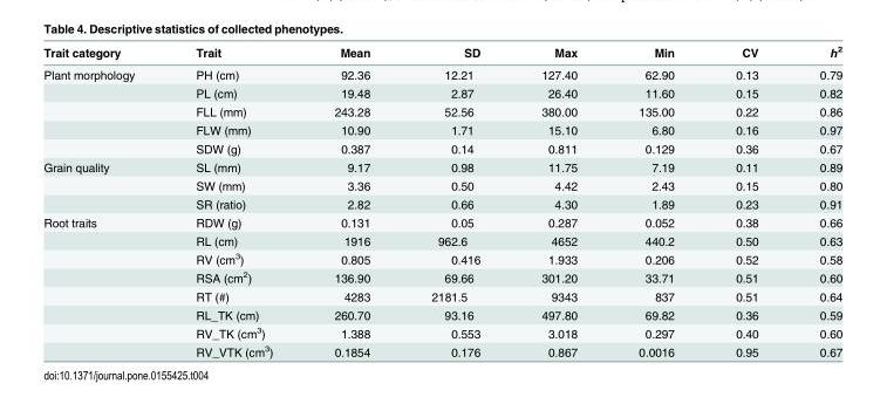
<table><thead><tr><td>Trait category</td><td>Trait</td><td>Mean</td><td>SD</td><td>Max</td><td>Min</td><td>CV</td><td>h<sup>2</sup></td></tr></thead><tbody><tr><td rowspan="5">Plant morphology</td><td>PH (cm)</td><td>92.36</td><td>12.21</td><td>127.40</td><td>62.90</td><td>0.13</td><td>0.79</td></tr><tr><td>PL (cm)</td><td>19.48</td><td>2.87</td><td>26.40</td><td>11.60</td><td>0.15</td><td>0.82</td></tr><tr><td>FLL (mm)</td><td>243.28</td><td>52.56</td><td>380.00</td><td>135.00</td><td>0.22</td><td>0.86</td></tr><tr><td>FLW (mm)</td><td>10.90</td><td>1.71</td><td>15.10</td><td>6.80</td><td>0.16</td><td>0.97</td></tr><tr><td>SDW (g)</td><td>0.387</td><td>0.14</td><td>0.811</td><td>0.129</td><td>0.36</td><td>0.67</td></tr><tr><td rowspan="3">Grain quality</td><td>SL (mm)</td><td>9.17</td><td>0.98</td><td>11.75</td><td>7.19</td><td>0.11</td><td>0.89</td></tr><tr><td>SW (mm)</td><td>3.36</td><td>0.50</td><td>4.42</td><td>2.43</td><td>0.15</td><td>0.80</td></tr><tr><td>SR (ratio)</td><td>2.82</td><td>0.66</td><td>4.30</td><td>1.89</td><td>0.23</td><td>0.91</td></tr><tr><td rowspan="8">Root traits</td><td>RDW (g)</td><td>0.131</td><td>0.05</td><td>0.287</td><td>0.052</td><td>0.38</td><td>0.66</td></tr><tr><td>RL (cm)</td><td>1916</td><td>962.6</td><td>4652</td><td>440.2</td><td>0.50</td><td>0.63</td></tr><tr><td>RV (cm<sup>3</sup>)</td><td>0.805</td><td>0.416</td><td>1.933</td><td>0.206</td><td>0.52</td><td>0.58</td></tr><tr><td>RSA (cm<sup>2</sup>)</td><td>136.90</td><td>69.66</td><td>301.20</td><td>33.71</td><td>0.51</td><td>0.60</td></tr><tr><td>RT (#)</td><td>4283</td><td>2181.5</td><td>9343</td><td>837</td><td>0.51</td><td>0.64</td></tr><tr><td>RL_TK (cm)</td><td>260.70</td><td>93.16</td><td>497.80</td><td>69.82</td><td>0.36</td><td>0.59</td></tr><tr><td>RV_TK (cm<sup>3</sup>)</td><td>1.388</td><td>0.553</td><td>3.018</td><td>0.297</td><td>0.40</td><td>0.60</td></tr><tr><td>RV_VTK (cm<sup>3</sup>)</td><td>0.1854</td><td>0.176</td><td>0.867</td><td>0.0016</td><td>0.95</td><td>0.67</td></tr></tbody></table>